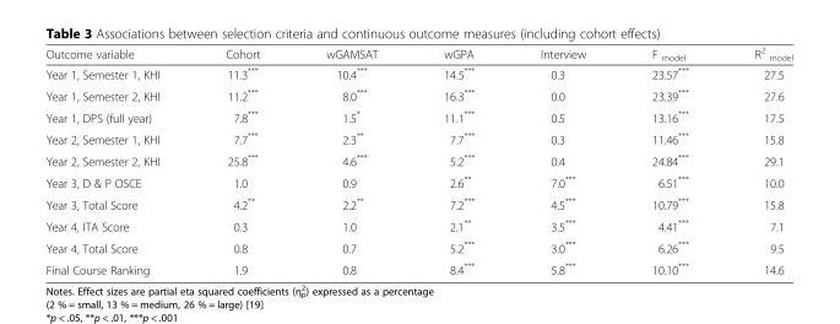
<table><thead><tr><td>Outcome variable</td><td>Cohort</td><td>wGAMSAT</td><td>wGPA</td><td>Interview</td><td>F <sub>model</sub></td><td>R<sup>2</sup> <sub>model</sub></td></tr></thead><tbody><tr><td>Year 1, Semester 1, KHI</td><td>11.3***</td><td>10.4***</td><td>14.5***</td><td>0.3</td><td>23.57***</td><td>27.5</td></tr><tr><td>Year 1, Semester 2, KHI</td><td>11.2***</td><td>8.0***</td><td>16.3***</td><td>0.0</td><td>23.39***</td><td>27.6</td></tr><tr><td>Year 1, DPS (full year)</td><td>7.8***</td><td>1.5*</td><td>11.1***</td><td>0.5</td><td>13.16***</td><td>17.5</td></tr><tr><td>Year 2, Semester 1, KHI</td><td>7.7***</td><td>2.3**</td><td>7.7***</td><td>0.3</td><td>11.46***</td><td>15.8</td></tr><tr><td>Year 2, Semester 2, KHI</td><td>25.8***</td><td>4.6***</td><td>5.2***</td><td>0.4</td><td>24.84***</td><td>29.1</td></tr><tr><td>Year 3, D &amp; P OSCE</td><td>1.0</td><td>0.9</td><td>2.6**</td><td>7.0***</td><td>6.51***</td><td>10.0</td></tr><tr><td>Year 3, Total Score</td><td>4.2**</td><td>2.2**</td><td>7.2***</td><td>4.5***</td><td>10.79***</td><td>15.8</td></tr><tr><td>Year 4, ITA Score</td><td>0.3</td><td>1.0</td><td>2.1**</td><td>3.5***</td><td>4.41***</td><td>7.1</td></tr><tr><td>Year 4, Total Score</td><td>0.8</td><td>0.7</td><td>5.2***</td><td>3.0***</td><td>6.26***</td><td>9.5</td></tr><tr><td>Final Course Ranking</td><td>1.9</td><td>0.8</td><td>8.4***</td><td>5.8***</td><td>10.10***</td><td>14.6</td></tr></tbody></table>